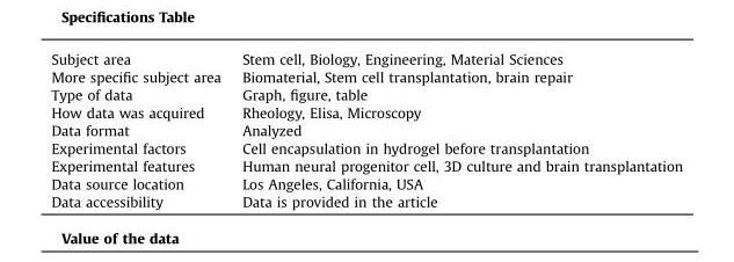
<table><tbody><tr><td>Subject area</td><td>Stem cell, Biology, Engineering, Material Sciences</td></tr><tr><td>More specific subject area</td><td>Biomaterial, Stem cell transplantation, brain repair</td></tr><tr><td>Type of data</td><td>Graph, figure, table</td></tr><tr><td>How data was acquired</td><td>Rheology, Elisa, Microscopy</td></tr><tr><td>Data format</td><td>Analyzed</td></tr><tr><td>Experimental factors</td><td>Cell encapsulation in hydrogel before transplantation</td></tr><tr><td>Experimental features</td><td>Human neural progenitor cell, 3D culture and brain transplantation</td></tr><tr><td>Data source location</td><td>Los Angeles, California, USA</td></tr><tr><td>Data accessibility</td><td>Data is provided in the article</td></tr></tbody></table>